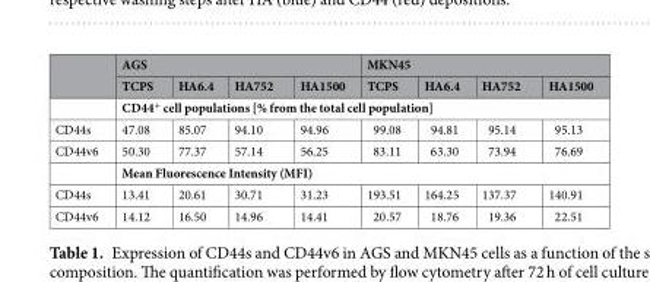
<table><thead><tr><td rowspan="2"></td><td colspan="4">AGS</td><td colspan="4">MKN45</td></tr><tr><td>TCPS</td><td>HA6.4</td><td>HA752</td><td>HA1500</td><td>TCPS</td><td>HA6.4</td><td>HA752</td><td>HA1500</td></tr></thead><tbody><tr><td></td><td colspan="8">CD44<sup>+</sup> cell populations [% from the total cell population]</td></tr><tr><td>CD44s</td><td>47.08</td><td>85.07</td><td>94.10</td><td>94.96</td><td>99.08</td><td>94.81</td><td>95.14</td><td>95.13</td></tr><tr><td rowspan="2">CD44v6</td><td>50.30</td><td>77.37</td><td>57.14</td><td>56.25</td><td>83.11</td><td>63.30</td><td>73.94</td><td>76.69</td></tr><tr><td colspan="8">Mean Fluorescence Intensity (MFI)</td></tr><tr><td>CD44s</td><td>13.41</td><td>20.61</td><td>30.71</td><td>31.23</td><td>193.51</td><td>164.25</td><td>137.37</td><td>140.91</td></tr><tr><td>CD44v6</td><td>14.12</td><td>16.50</td><td>14.96</td><td>14.41</td><td>20.57</td><td>18.76</td><td>19.36</td><td>22.51</td></tr></tbody></table>